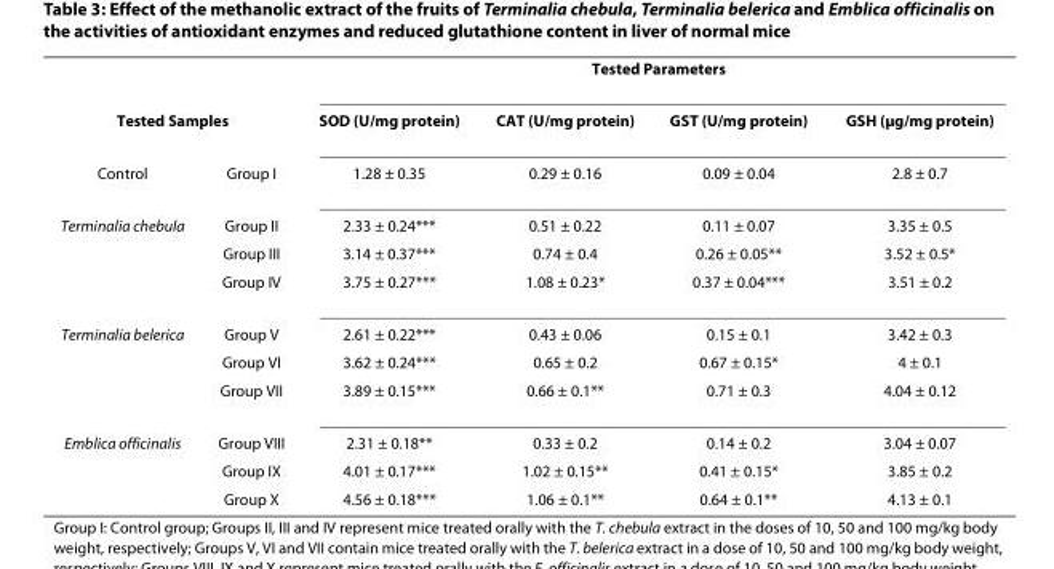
<table><thead><tr><td></td><td></td><td colspan="4">Tested Parameters</td></tr><tr><td colspan="2">Tested Samples</td><td>SOD (U/mg protein)</td><td>CAT (U/mg protein)</td><td>GST (U/mg protein)</td><td>GSH (μg/mg protein)</td></tr></thead><tbody><tr><td>Control</td><td>Group I</td><td>1.28 ± 0.35</td><td>0.29 ± 0.16</td><td>0.09 ± 0.04</td><td>2.8 ± 0.7</td></tr><tr><td rowspan="3">Terminalia chebula</td><td>Group II</td><td>2.33 ± 0.24***</td><td>0.51 ± 0.22</td><td>0.11 ± 0.07</td><td>3.35 ± 0.5</td></tr><tr><td>Group III</td><td>3.14 ± 0.37***</td><td>0.74 ± 0.4</td><td>0.26 ± 0.05**</td><td>3.52 ± 0.5*</td></tr><tr><td>Group IV</td><td>3.75 ± 0.27***</td><td>1.08 ± 0.23*</td><td>0.37 ± 0.04***</td><td>3.51 ± 0.2</td></tr><tr><td rowspan="3">Terminalia belerica</td><td>Group V</td><td>2.61 ± 0.22***</td><td>0.43 ± 0.06</td><td>0.15 ± 0.1</td><td>3.42 ± 0.3</td></tr><tr><td>Group VI</td><td>3.62 ± 0.24***</td><td>0.65 ± 0.2</td><td>0.67 ± 0.15*</td><td>4 ± 0.1</td></tr><tr><td>Group VII</td><td>3.89 ± 0.15***</td><td>0.66 ± 0.1**</td><td>0.71 ± 0.3</td><td>4.04 ± 0.12</td></tr><tr><td rowspan="3">Emblica officinalis</td><td>Group VIII</td><td>2.31 ± 0.18**</td><td>0.33 ± 0.2</td><td>0.14 ± 0.2</td><td>3.04 ± 0.07</td></tr><tr><td>Group IX</td><td>4.01 ± 0.17***</td><td>1.02 ± 0.15**</td><td>0.41 ± 0.15*</td><td>3.85 ± 0.2</td></tr><tr><td>Group X</td><td>4.56 ± 0.18***</td><td>1.06 ± 0.1**</td><td>0.64 ± 0.1**</td><td>4.13 ± 0.1</td></tr></tbody></table>